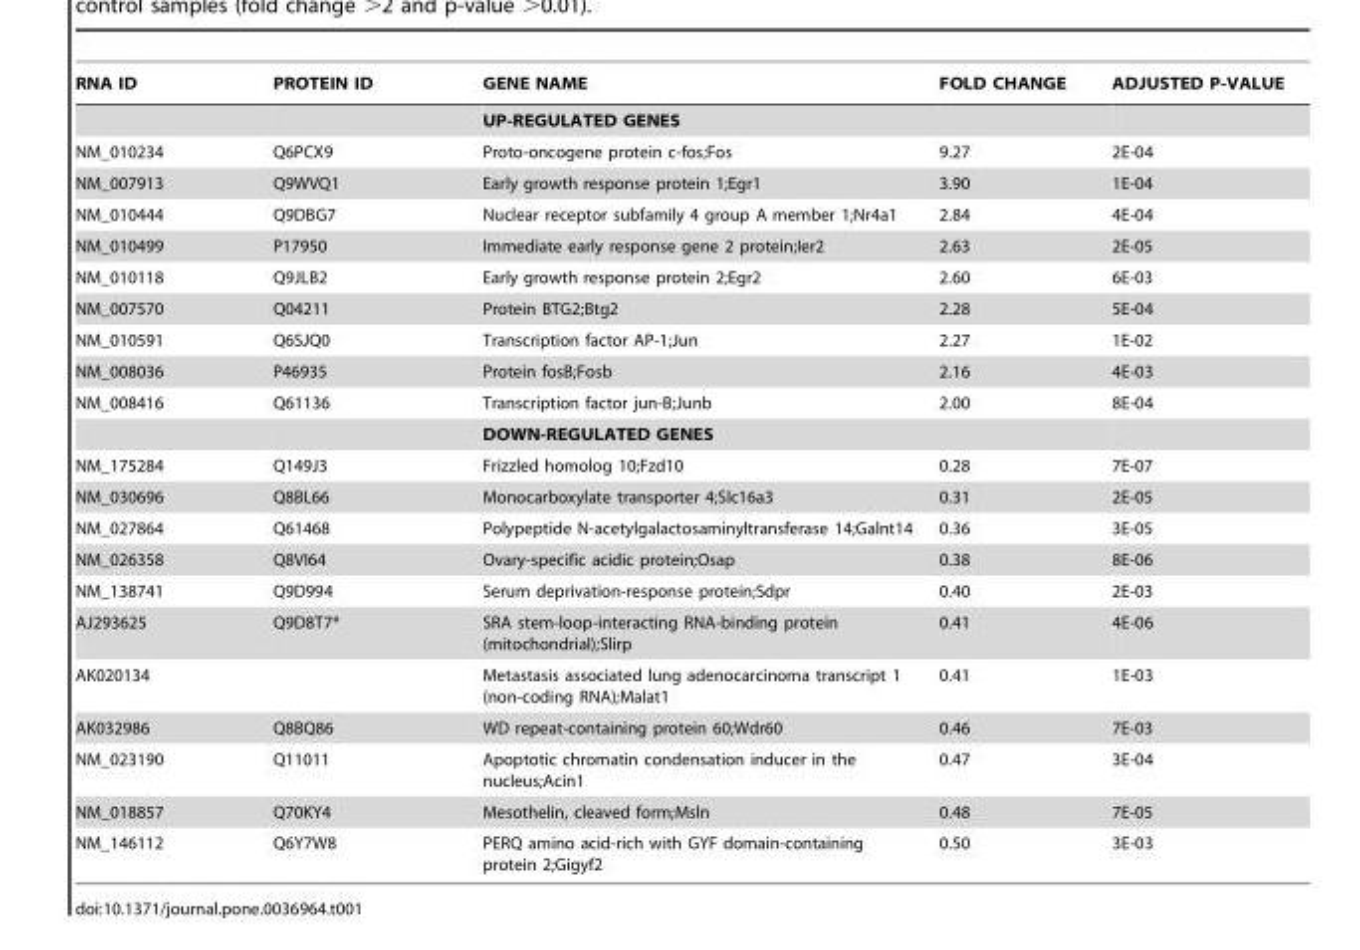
<table><thead><tr><td>RNA ID</td><td>PROTEIN ID</td><td>GENE NAME</td><td>FOLD CHANGE</td><td>ADJUSTED P-VALUE</td></tr></thead><tbody><tr><td></td><td></td><td>UP-REGULATED GENES</td><td></td><td></td></tr><tr><td>NM_010234</td><td>Q6PCX9</td><td>Proto-oncogene protein c-fos;Fos</td><td>9.27</td><td>2E-04</td></tr><tr><td>NM_007913</td><td>Q9WVQ1</td><td>Early growth response protein 1;Egr1</td><td>3.90</td><td>1E-04</td></tr><tr><td>NM_010444</td><td>Q9DBG7</td><td>Nuclear receptor subfamily 4 group A member 1;Nr4a1</td><td>2.84</td><td>4E-04</td></tr><tr><td>NM_010499</td><td>P17950</td><td>Immediate early response gene 2 protein;Ier2</td><td>2.63</td><td>2E-05</td></tr><tr><td>NM_010118</td><td>Q9JLB2</td><td>Early growth response protein 2;Egr2</td><td>2.60</td><td>6E-03</td></tr><tr><td>NM_007570</td><td>Q04211</td><td>Protein BTG2;Btg2</td><td>2.28</td><td>5E-04</td></tr><tr><td>NM_010591</td><td>Q6SJQ0</td><td>Transcription factor AP-1;Jun</td><td>2.27</td><td>1E-02</td></tr><tr><td>NM_008036</td><td>P46935</td><td>Protein fosB;Fosb</td><td>2.16</td><td>4E-03</td></tr><tr><td rowspan="2">NM_008416</td><td>Q61136</td><td>Transcription factor jun-B;Junb</td><td>2.00</td><td>8E-04</td></tr><tr><td></td><td>DOWN-REGULATED GENES</td><td></td><td></td></tr><tr><td>NM_175284</td><td>Q149J3</td><td>Frizzled homolog 10;Fzd10</td><td>0.28</td><td>7E-07</td></tr><tr><td>NM_030696</td><td>Q8BL66</td><td>Monocarboxylate transporter 4;Slc16a3</td><td>0.31</td><td>2E-05</td></tr><tr><td>NM_027864</td><td>Q61468</td><td>Polypeptide N-acetylgalactosaminyltransferase 14;Galnt14</td><td>0.36</td><td>3E-05</td></tr><tr><td>NM_026358</td><td>Q8VI64</td><td>Ovary-specific acidic protein;Osap</td><td>0.38</td><td>8E-06</td></tr><tr><td>NM_138741</td><td>Q9D994</td><td>Serum deprivation-response protein;Sdpr</td><td>0.40</td><td>2E-03</td></tr><tr><td>AJ293625</td><td>Q9D8T7*</td><td>SRA stem-loop-interacting RNA-binding protein (mitochondrial);Slirp</td><td>0.41</td><td>4E-06</td></tr><tr><td>AK020134</td><td></td><td>Metastasis associated lung adenocarcinoma transcript 1 (non-coding RNA);Malat1</td><td>0.41</td><td>1E-03</td></tr><tr><td>AK032986</td><td>Q8BQ86</td><td>WD repeat-containing protein 60;Wdr60</td><td>0.46</td><td>7E-03</td></tr><tr><td>NM_023190</td><td>Q11011</td><td>Apoptotic chromatin condensation inducer in the nucleus;Acin1</td><td>0.47</td><td>3E-04</td></tr><tr><td>NM_018857</td><td>Q70KY4</td><td>Mesothelin, cleaved form;Msln</td><td>0.48</td><td>7E-05</td></tr><tr><td>NM_146112</td><td>Q6Y7W8</td><td>PERQ amino acid-rich with GYF domain-containing protein 2;Gigyf2</td><td>0.50</td><td>3E-03</td></tr></tbody></table>